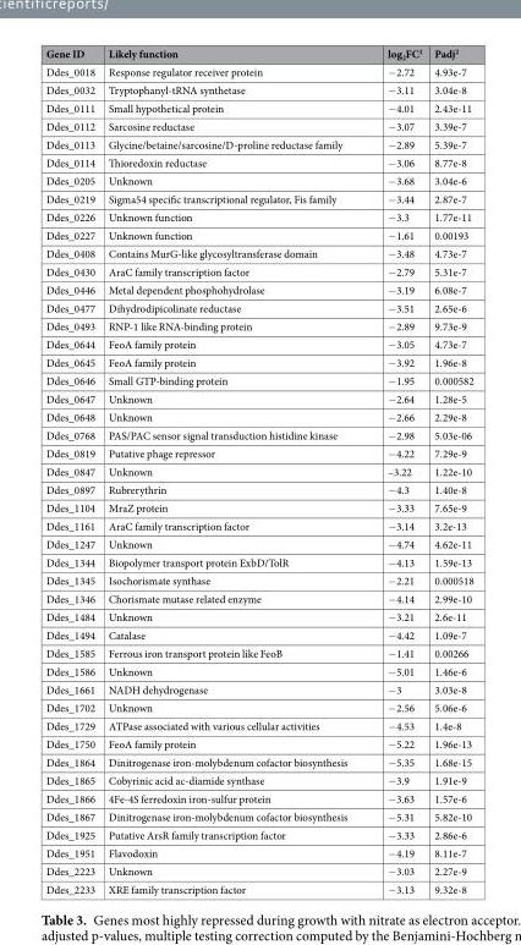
<table><thead><tr><td>Gene ID</td><td>Likely function</td><td>log<sub>2</sub>FC<sup>1</sup></td><td>Padj<sup>2</sup></td></tr></thead><tbody><tr><td>Ddes_0018</td><td>Response regulator receiver protein</td><td>−2.72</td><td>4.93e-7</td></tr><tr><td>Ddes_0032</td><td>Tryptophanyl-tRNA synthetase</td><td>−3.11</td><td>3.04e-8</td></tr><tr><td>Ddes_0111</td><td>Small hypothetical protein</td><td>−4.01</td><td>2.43e-11</td></tr><tr><td>Ddes_0112</td><td>Sarcosine reductase</td><td>−3.07</td><td>3.39e-7</td></tr><tr><td>Ddes_0113</td><td>Glycine/betaine/sarcosine/D-proline reductase family</td><td>−2.89</td><td>5.39e-7</td></tr><tr><td>Ddes_0114</td><td>Thioredoxin reductase</td><td>−3.06</td><td>8.77e-8</td></tr><tr><td>Ddes_0205</td><td>Unknown</td><td>−3.68</td><td>3.04e-6</td></tr><tr><td>Ddes_0219</td><td>Sigma54 specific transcriptional regulator, Fis family</td><td>−3.44</td><td>2.87e-7</td></tr><tr><td>Ddes_0226</td><td>Unknown function</td><td>−3.3</td><td>1.77e-11</td></tr><tr><td>Ddes_0227</td><td>Unknown function</td><td>−1.61</td><td>0.00193</td></tr><tr><td>Ddes_0408</td><td>Contains MurG-like glycosyltransferase domain</td><td>−3.48</td><td>4.73e-7</td></tr><tr><td>Ddes_0430</td><td>AraC family transcription factor</td><td>−2.79</td><td>5.31e-7</td></tr><tr><td>Ddes_0446</td><td>Metal dependent phosphohydrolase</td><td>−3.19</td><td>6.08e-7</td></tr><tr><td>Ddes_0477</td><td>Dihydrodipicolinate reductase</td><td>−3.51</td><td>2.65e-6</td></tr><tr><td>Ddes_0493</td><td>RNP-1 like RNA-binding protein</td><td>−2.89</td><td>9.73e-9</td></tr><tr><td>Ddes_0644</td><td>FeoA family protein</td><td>−3.05</td><td>4.73e-7</td></tr><tr><td>Ddes_0645</td><td>FeoA family protein</td><td>−3.92</td><td>1.96e-8</td></tr><tr><td>Ddes_0646</td><td>Small GTP-binding protein</td><td>−1.95</td><td>0.000582</td></tr><tr><td>Ddes_0647</td><td>Unknown</td><td>−2.64</td><td>1.28e-5</td></tr><tr><td>Ddes_0648</td><td>Unknown</td><td>−2.66</td><td>2.29e-8</td></tr><tr><td>Ddes_0768</td><td>PAS/PAC sensor signal transduction histidine kinase</td><td>−2.98</td><td>5.03e-06</td></tr><tr><td>Ddes_0819</td><td>Putative phage repressor</td><td>−4.22</td><td>7.29e-9</td></tr><tr><td>Ddes_0847</td><td>Unknown</td><td>–3.22</td><td>1.22e-10</td></tr><tr><td>Ddes_0897</td><td>Rubrerythrin</td><td>−4.3</td><td>1.40e-8</td></tr><tr><td>Ddes_1104</td><td>MraZ protein</td><td>−3.33</td><td>7.65e-9</td></tr><tr><td>Ddes_1161</td><td>AraC family transcription factor</td><td>−3.14</td><td>3.2e-13</td></tr><tr><td>Ddes_1247</td><td>Unknown</td><td>−4.74</td><td>4.62e-11</td></tr><tr><td>Ddes_1344</td><td>Biopolymer transport protein ExbD/TolR</td><td>−4.13</td><td>1.59e-13</td></tr><tr><td>Ddes_1345</td><td>Isochorismate synthase</td><td>−2.21</td><td>0.000518</td></tr><tr><td>Ddes_1346</td><td>Chorismate mutase related enzyme</td><td>−4.14</td><td>2.99e-10</td></tr><tr><td>Ddes_1484</td><td>Unknown</td><td>−3.21</td><td>2.6e-11</td></tr><tr><td>Ddes_1494</td><td>Catalase</td><td>−4.42</td><td>1.09e-7</td></tr><tr><td>Ddes_1585</td><td>Ferrous iron transport protein like FeoB</td><td>−1.41</td><td>0.00266</td></tr><tr><td>Ddes_1586</td><td>Unknown</td><td>−5.01</td><td>1.46e-6</td></tr><tr><td>Ddes_1661</td><td>NADH dehydrogenase</td><td>−3</td><td>3.03e-8</td></tr><tr><td>Ddes_1702</td><td>Unknown</td><td>−2.56</td><td>5.06e-6</td></tr><tr><td>Ddes_1729</td><td>ATPase associated with various cellular activities</td><td>−4.53</td><td>1.4e-8</td></tr><tr><td>Ddes_1750</td><td>FeoA family protein</td><td>−5.22</td><td>1.96e-13</td></tr><tr><td>Ddes_1864</td><td>Dinitrogenase iron-molybdenum cofactor biosynthesis</td><td>−5.35</td><td>1.68e-15</td></tr><tr><td>Ddes_1865</td><td>Cobyrinic acid ac-diamide synthase</td><td>−3.9</td><td>1.91e-9</td></tr><tr><td>Ddes_1866</td><td>4Fe-4S ferredoxin iron-sulfur protein</td><td>−3.63</td><td>1.57e-6</td></tr><tr><td>Ddes_1867</td><td>Dinitrogenase iron-molybdenum cofactor biosynthesis</td><td>−5.31</td><td>5.82e-10</td></tr><tr><td>Ddes_1925</td><td>Putative ArsR family transcription factor</td><td>−3.33</td><td>2.86e-6</td></tr><tr><td>Ddes_1951</td><td>Flavodoxin</td><td>−4.19</td><td>8.11e-7</td></tr><tr><td>Ddes_2223</td><td>Unknown</td><td>−3.03</td><td>2.27e-9</td></tr><tr><td>Ddes_2233</td><td>XRE family transcription factor</td><td>−3.13</td><td>9.32e-8</td></tr></tbody></table>